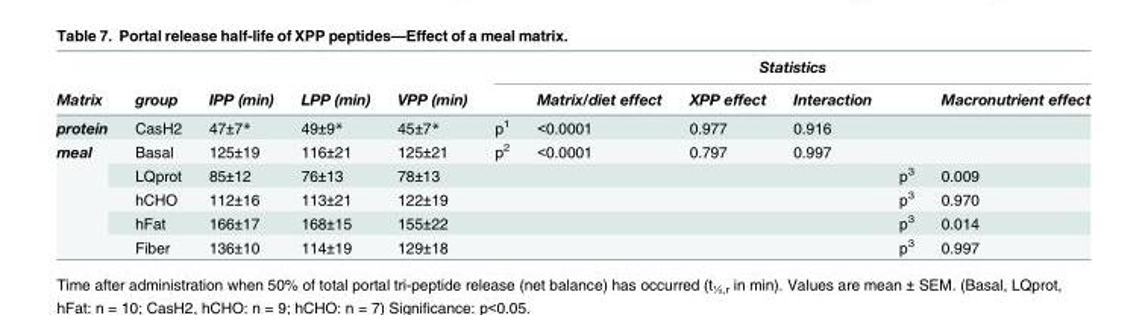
<table><thead><tr><td rowspan="2">Matrix</td><td rowspan="2">group</td><td rowspan="2">IPP (min)</td><td rowspan="2">LPP (min)</td><td rowspan="2">VPP (min)</td><td colspan="6">Statistics</td></tr><tr><td></td><td>Matrix/diet effect</td><td>XPP effect</td><td>Interaction</td><td></td><td>Macronutrient effect</td></tr></thead><tbody><tr><td>protein</td><td>CasH2</td><td>47±7*</td><td>49±9*</td><td>45±7*</td><td>p<sup>1</sup></td><td>&lt;0.0001</td><td>0.977</td><td>0.916</td><td></td><td></td></tr><tr><td rowspan="5">meal</td><td>Basal</td><td>125±19</td><td>116±21</td><td>125±21</td><td>p<sup>2</sup></td><td>&lt;0.0001</td><td>0.797</td><td>0.997</td><td></td><td></td></tr><tr><td>LQprot</td><td>85±12</td><td>76±13</td><td>78±13</td><td></td><td></td><td></td><td></td><td>p<sup>3</sup></td><td>0.009</td></tr><tr><td>hCHO</td><td>112±16</td><td>113±21</td><td>122±19</td><td></td><td></td><td></td><td></td><td>p<sup>3</sup></td><td>0.970</td></tr><tr><td>hFat</td><td>166±17</td><td>168±15</td><td>155±22</td><td></td><td></td><td></td><td></td><td>p<sup>3</sup></td><td>0.014</td></tr><tr><td>Fiber</td><td>136±10</td><td>114±19</td><td>129±18</td><td></td><td></td><td></td><td></td><td>p<sup>3</sup></td><td>0.997</td></tr></tbody></table>